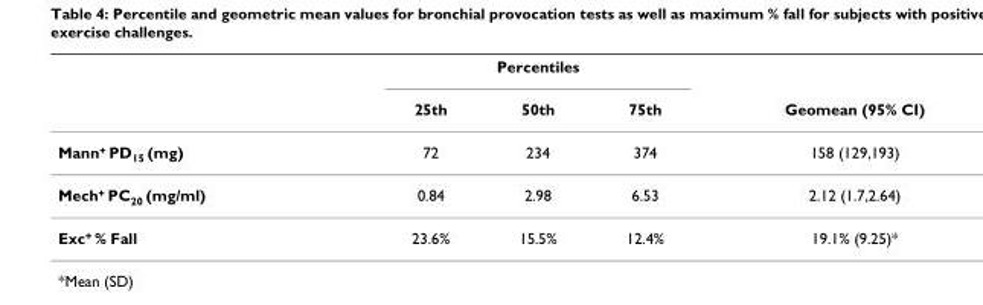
<table><thead><tr><td rowspan="2"></td><td colspan="3">Percentiles</td><td rowspan="2">Geomean (95% CI)</td></tr><tr><td>25th</td><td>50th</td><td>75th</td></tr></thead><tbody><tr><td>Mann<sup>+</sup> PD<sub>15</sub> (mg)</td><td>72</td><td>234</td><td>374</td><td>158 (129,193)</td></tr><tr><td>Mech<sup>+</sup> PC<sub>20</sub> (mg/ml)</td><td>0.84</td><td>2.98</td><td>6.53</td><td>2.12 (1.7,2.64)</td></tr><tr><td>Exc<sup>+</sup> % Fall</td><td>23.6%</td><td>15.5%</td><td>12.4%</td><td>19.1% (9.25)*</td></tr></tbody></table>